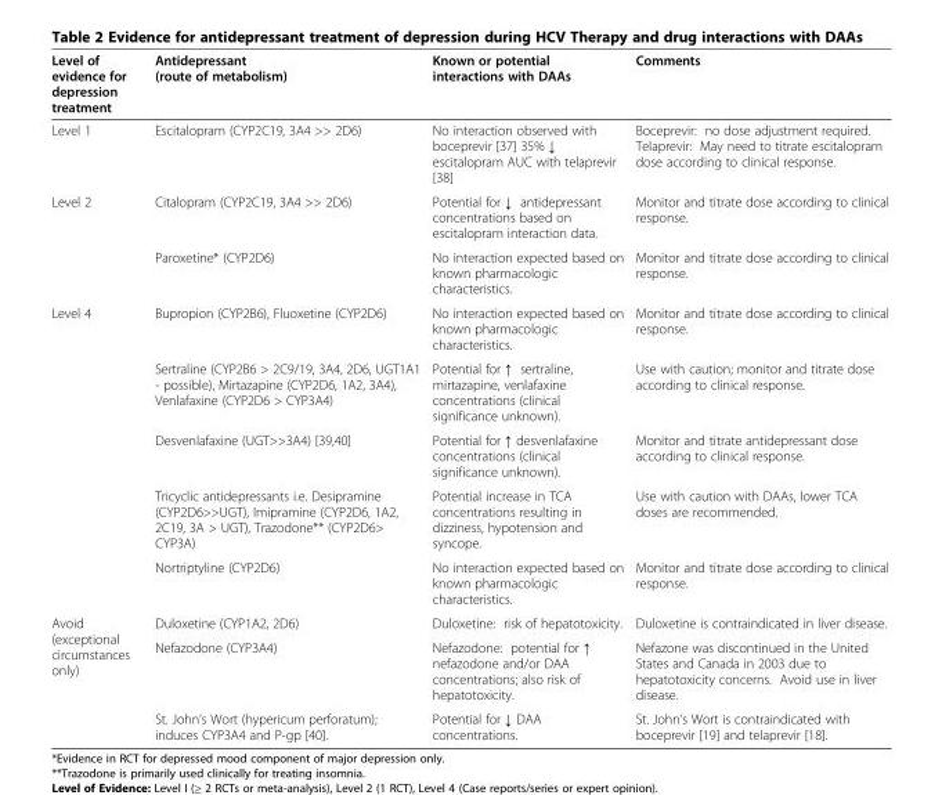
<table><thead><tr><td>Level of evidence for depression treatment</td><td>Antidepressant (route of metabolism)</td><td>Known or potential interactions with DAAs</td><td>Comments</td></tr></thead><tbody><tr><td>Level 1</td><td>Escitalopram (CYP2C19, 3A4 &gt;&gt; 2D6)</td><td>No interaction observed with boceprevir [37] 35% ↓ escitalopram AUC with telaprevir [38]</td><td>Boceprevir: no dose adjustment required. Telaprevir: May need to titrate escitalopram dose according to clinical response.</td></tr><tr><td rowspan="2">Level 2</td><td>Citalopram (CYP2C19, 3A4 &gt;&gt; 2D6)</td><td>Potential for ↓ antidepressant concentrations based on escitalopram interaction data.</td><td>Monitor and titrate dose according to clinical response.</td></tr><tr><td>Paroxetine* (CYP2D6)</td><td>No interaction expected based on known pharmacologic characteristics.</td><td>Monitor and titrate dose according to clinical response.</td></tr><tr><td rowspan="5">Level 4</td><td>Bupropion (CYP2B6), Fluoxetine (CYP2D6)</td><td>No interaction expected based on known pharmacologic characteristics.</td><td>Monitor and titrate dose according to clinical response.</td></tr><tr><td>Sertraline (CYP2B6 &gt; 2C9/19, 3A4, 2D6, UGT1A1 - possible), Mirtazapine (CYP2D6, 1A2, 3A4), Venlafaxine (CYP2D6 &gt; CYP3A4)</td><td>Potential for ↑ sertraline, mirtazapine, venlafaxine concentrations (clinical significance unknown).</td><td>Use with caution; monitor and titrate dose according to clinical response.</td></tr><tr><td>Desvenlafaxine (UGT&gt;&gt;3A4) [39,40]</td><td>Potential for ↑ desvenlafaxine concentrations (clinical significance unknown).</td><td>Monitor and titrate antidepressant dose according to clinical response.</td></tr><tr><td>Tricyclic antidepressants i.e. Desipramine (CYP2D6&gt;&gt;UGT), Imipramine (CYP2D6, 1A2, 2C19, 3A &gt; UGT), Trazodone** (CYP2D6&gt; CYP3A)</td><td>Potential increase in TCA concentrations resulting in dizziness, hypotension and syncope.</td><td>Use with caution with DAAs, lower TCA doses are recommended.</td></tr><tr><td>Nortriptyline (CYP2D6)</td><td>No interaction expected based on known pharmacologic characteristics.</td><td>Monitor and titrate dose according to clinical response.</td></tr><tr><td rowspan="3">Avoid (exceptional circumstances only)</td><td>Duloxetine (CYP1A2, 2D6)</td><td>Duloxetine: risk of hepatotoxicity.</td><td>Duloxetine is contraindicated in liver disease.</td></tr><tr><td>Nefazodone (CYP3A4)</td><td>Nefazodone: potential for ↑ nefazodone and/or DAA concentrations; also risk of hepatotoxicity.</td><td>Nefazone was discontinued in the United States and Canada in 2003 due to hepatotoxicity concerns. Avoid use in liver disease.</td></tr><tr><td>St. John’s Wort (hypericum perforatum); induces CYP3A4 and P-gp [40].</td><td>Potential for ↓ DAA concentrations.</td><td>St. John’s Wort is contraindicated with boceprevir [19] and telaprevir [18].</td></tr></tbody></table>